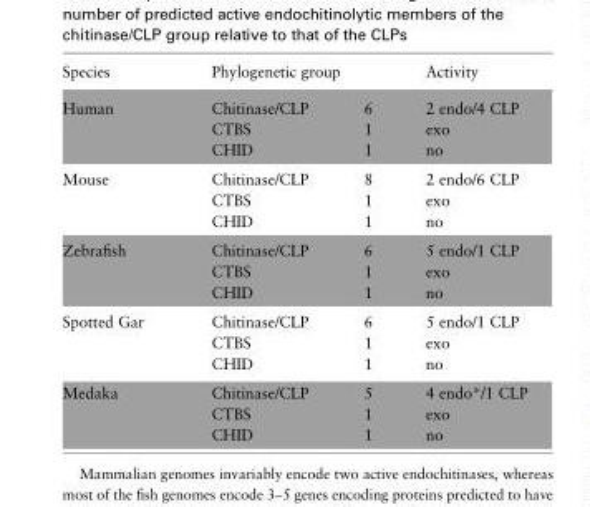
<table><thead><tr><td>Species</td><td>Phylogenetic group</td><td></td><td>Activity</td></tr></thead><tbody><tr><td>Human</td><td>Chitinase/CLP CTBS CHID</td><td>6 1 1</td><td>2 endo/4 CLP exo no</td></tr><tr><td>Mouse</td><td>Chitinase/CLP CTBS CHID</td><td>8 1 1</td><td>2 endo/6 CLP exo no</td></tr><tr><td>Zebrafish</td><td>Chitinase/CLP CTBS CHID</td><td>6 1 1</td><td>5 endo/1 CLP exo no</td></tr><tr><td>Spotted Gar</td><td>Chitinase/CLP CTBS CHID</td><td>6 1 1</td><td>5 endo/1 CLP exo no</td></tr><tr><td>Medaka</td><td>Chitinase/CLP CTBS CHID</td><td>5 1 1</td><td>4 endo*/1 CLP exo no</td></tr></tbody></table>